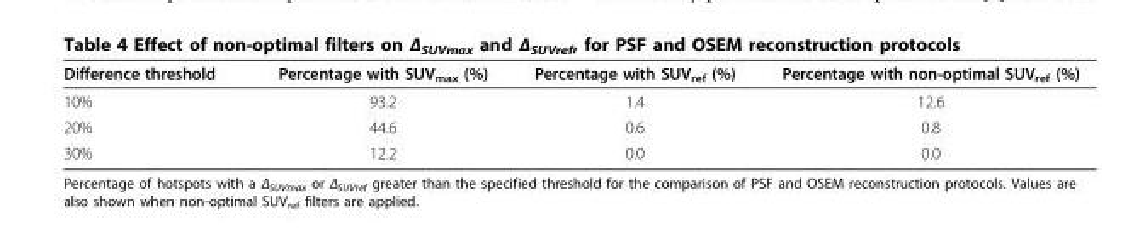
<table><thead><tr><td>Difference threshold</td><td>Percentage with SUV<sub>max</sub> (%)</td><td>Percentage with SUV<sub>ref</sub> (%)</td><td>Percentage with non-optimal SUV<sub>ref</sub> (%)</td></tr></thead><tbody><tr><td>10%</td><td>93.2</td><td>1.4</td><td>12.6</td></tr><tr><td>20%</td><td>44.6</td><td>0.6</td><td>0.8</td></tr><tr><td>30%</td><td>12.2</td><td>0.0</td><td>0.0</td></tr></tbody></table>